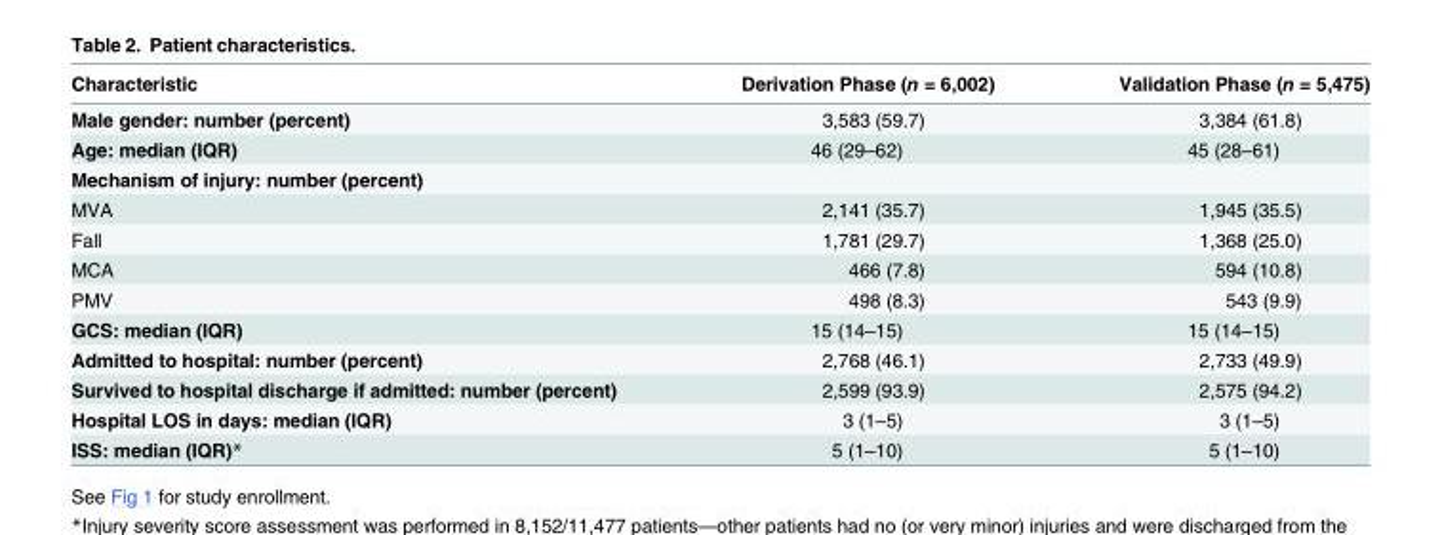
<table><thead><tr><td>Characteristic</td><td>Derivation Phase (n = 6,002)</td><td>Validation Phase (n = 5,475)</td></tr></thead><tbody><tr><td>Male gender: number (percent)</td><td>3,583 (59.7)</td><td>3,384 (61.8)</td></tr><tr><td>Age: median (IQR)</td><td>46 (29–62)</td><td>45 (28–61)</td></tr><tr><td colspan="3">Mechanism of injury: number (percent)</td></tr><tr><td>MVA</td><td>2,141 (35.7)</td><td>1,945 (35.5)</td></tr><tr><td>Fall</td><td>1,781 (29.7)</td><td>1,368 (25.0)</td></tr><tr><td>MCA</td><td>466 (7.8)</td><td>594 (10.8)</td></tr><tr><td>PMV</td><td>498 (8.3)</td><td>543 (9.9)</td></tr><tr><td>GCS: median (IQR)</td><td>15 (14–15)</td><td>15 (14–15)</td></tr><tr><td>Admitted to hospital: number (percent)</td><td>2,768 (46.1)</td><td>2,733 (49.9)</td></tr><tr><td>Survived to hospital discharge if admitted: number (percent)</td><td>2,599 (93.9)</td><td>2,575 (94.2)</td></tr><tr><td>Hospital LOS in days: median (IQR)</td><td>3 (1–5)</td><td>3 (1–5)</td></tr><tr><td>ISS: median (IQR)*</td><td>5 (1–10)</td><td>5 (1–10)</td></tr></tbody></table>